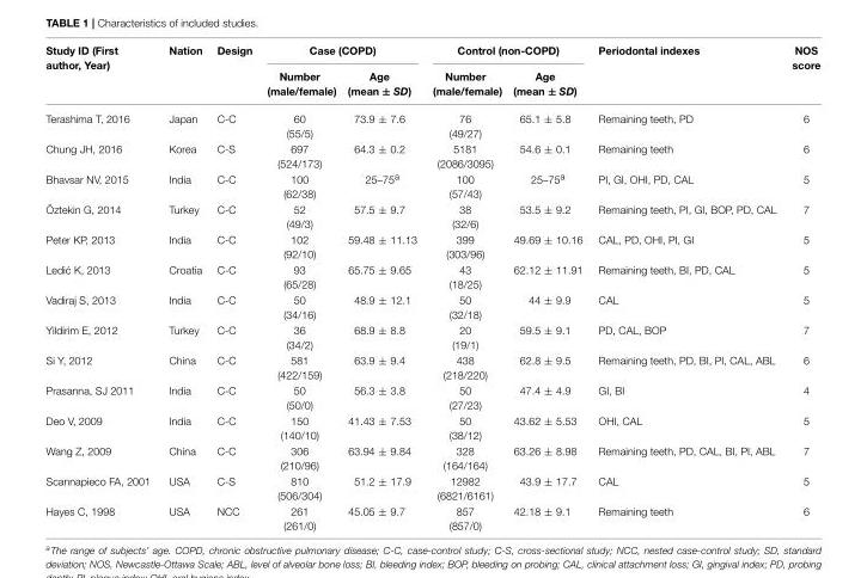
<table><thead><tr><td rowspan="2">Study ID (First author, Year)</td><td rowspan="2">Nation</td><td rowspan="2">Design</td><td colspan="2">Case (COPD)</td><td colspan="2">Control (non-COPD)</td><td rowspan="2">Periodontal indexes</td><td rowspan="2">NOS score</td></tr><tr><td>Number (male/female)</td><td>Age (mean ± SD)</td><td>Number (male/female)</td><td>Age (mean ± SD)</td></tr></thead><tbody><tr><td>Terashima T, 2016</td><td>Japan</td><td>C-C</td><td>60 (55/5)</td><td>73.9 ± 7.6</td><td>76 (49/27)</td><td>65.1 ± 5.8</td><td>Remaining teeth, PD</td><td>6</td></tr><tr><td>Chung JH, 2016</td><td>Korea</td><td>C-S</td><td>697 (524/173)</td><td>64.3 ± 0.2</td><td>5181 (2086/3095)</td><td>54.6 ± 0.1</td><td>Remaining teeth</td><td>6</td></tr><tr><td>Bhavsar NV, 2015</td><td>India</td><td>C-C</td><td>100 (62/38)</td><td>25–75<sup>a</sup></td><td>100 (57/43)</td><td>25–75<sup>a</sup></td><td>PI, GI, OHI, PD, CAL</td><td>5</td></tr><tr><td>Öztekin G, 2014</td><td>Turkey</td><td>C-C</td><td>52 (49/3)</td><td>57.5 ± 9.7</td><td>38 (32/6)</td><td>53.5 ± 9.2</td><td>Remaining teeth, PI, GI, BOP, PD, CAL</td><td>7</td></tr><tr><td>Peter KP, 2013</td><td>India</td><td>C-C</td><td>102 (92/10)</td><td>59.48 ± 11.13</td><td>399 (303/96)</td><td>49.69 ± 10.16</td><td>CAL, PD, OHI, PI, GI</td><td>5</td></tr><tr><td>Ledi ´c K, 2013</td><td>Croatia</td><td>C-C</td><td>93 (65/28)</td><td>65.75 ± 9.65</td><td>43 (18/25)</td><td>62.12 ± 11.91</td><td>Remaining teeth, BI, PD, CAL</td><td>5</td></tr><tr><td>Vadiraj S, 2013</td><td>India</td><td>C-C</td><td>50 (34/16)</td><td>48.9 ± 12.1</td><td>50 (32/18)</td><td>44 ± 9.9</td><td>CAL</td><td>5</td></tr><tr><td>Yildirim E, 2012</td><td>Turkey</td><td>C-C</td><td>36 (34/2)</td><td>68.9 ± 8.8</td><td>20 (19/1)</td><td>59.5 ± 9.1</td><td>PD, CAL, BOP</td><td>7</td></tr><tr><td>Si Y, 2012</td><td>China</td><td>C-C</td><td>581 (422/159)</td><td>63.9 ± 9.4</td><td>438 (218/220)</td><td>62.8 ± 9.5</td><td>Remaining teeth, PD, BI, PI, CAL, ABL</td><td>6</td></tr><tr><td>Prasanna, SJ 2011</td><td>India</td><td>C-C</td><td>50 (50/0)</td><td>56.3 ± 3.8</td><td>50 (27/23)</td><td>47.4 ± 4.9</td><td>GI, BI</td><td>4</td></tr><tr><td>Deo V, 2009</td><td>India</td><td>C-C</td><td>150 (140/10)</td><td>41.43 ± 7.53</td><td>50 (38/12)</td><td>43.62 ± 5.53</td><td>OHI, CAL</td><td>5</td></tr><tr><td>Wang Z, 2009</td><td>China</td><td>C-C</td><td>306 (210/96)</td><td>63.94 ± 9.84</td><td>328 (164/164)</td><td>63.26 ± 8.98</td><td>Remaining teeth, PD, CAL, BI, PI, ABL</td><td>7</td></tr><tr><td>Scannapieco FA, 2001</td><td>USA</td><td>C-S</td><td>810 (506/304)</td><td>51.2 ± 17.9</td><td>12982 (6821/6161)</td><td>43.9 ± 17.7</td><td>CAL</td><td>5</td></tr><tr><td>Hayes C, 1998</td><td>USA</td><td>NCC</td><td>261 (261/0)</td><td>45.05 ± 9.7</td><td>857 (857/0)</td><td>42.18 ± 9.1</td><td>Remaining teeth</td><td>6</td></tr></tbody></table>